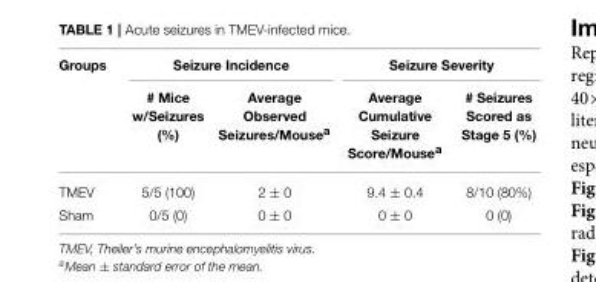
<table><thead><tr><td rowspan="2">Groups</td><td colspan="2">Seizure Incidence</td><td colspan="2">Seizure Severity</td></tr><tr><td># Mice w/Seizures (%)</td><td>Average Observed Seizures/Mouse<sup>a</sup></td><td>Average Cumulative Seizure Score/Mouse<sup>a</sup></td><td># Seizures Scored as Stage 5 (%)</td></tr></thead><tbody><tr><td>TMEV</td><td>5/5 (100)</td><td>2 ± 0</td><td>9.4 ± 0.4</td><td>8/10 (80%)</td></tr><tr><td>Sham</td><td>0/5 (0)</td><td>0 ± 0</td><td>0 ± 0</td><td>0 (0)</td></tr></tbody></table>